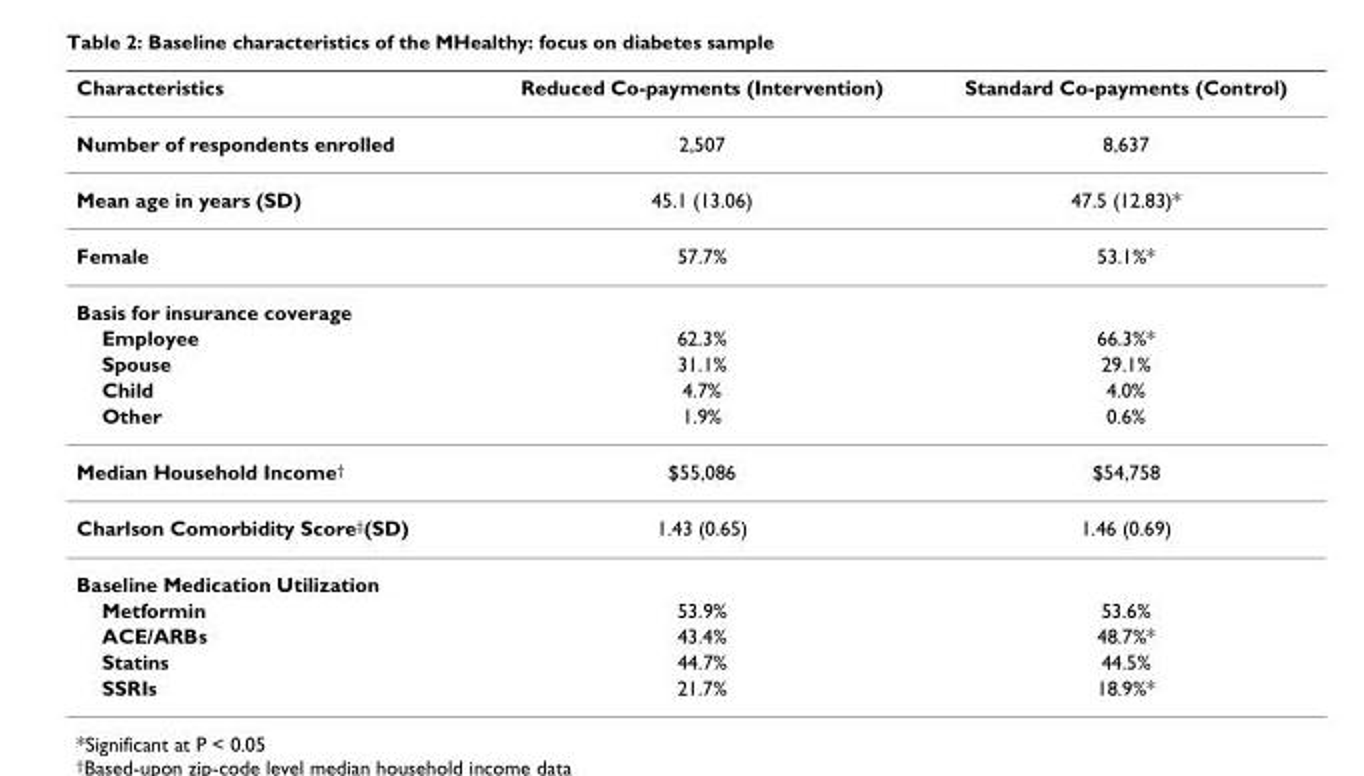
<table><thead><tr><td>Characteristics</td><td>Reduced Co-payments (Intervention)</td><td>Standard Co-payments (Control)</td></tr></thead><tbody><tr><td>Number of respondents enrolled</td><td>2,507</td><td>8,637</td></tr><tr><td>Mean age in years (SD)</td><td>45.1 (13.06)</td><td>47.5 (12.83)*</td></tr><tr><td>Female</td><td>57.7%</td><td>53.1%*</td></tr><tr><td colspan="3">Basis for insurance coverage</td></tr><tr><td>Employee</td><td>62.3%</td><td>66.3%*</td></tr><tr><td>Spouse</td><td>31.1%</td><td>29.1%</td></tr><tr><td>Child</td><td>4.7%</td><td>4.0%</td></tr><tr><td>Other</td><td>1.9%</td><td>0.6%</td></tr><tr><td>Median Household Income<sup>†</sup></td><td>$55,086</td><td>$54,758</td></tr><tr><td>Charlson Comorbidity Score<sup>‡</sup>(SD)</td><td>1.43 (0.65)</td><td>1.46 (0.69)</td></tr><tr><td colspan="3">Baseline Medication Utilization</td></tr><tr><td>Metformin</td><td>53.9%</td><td>53.6%</td></tr><tr><td>ACE/ARBs</td><td>43.4%</td><td>48.7%*</td></tr><tr><td>Statins</td><td>44.7%</td><td>44.5%</td></tr><tr><td>SSRIs</td><td>21.7%</td><td>18.9%*</td></tr></tbody></table>